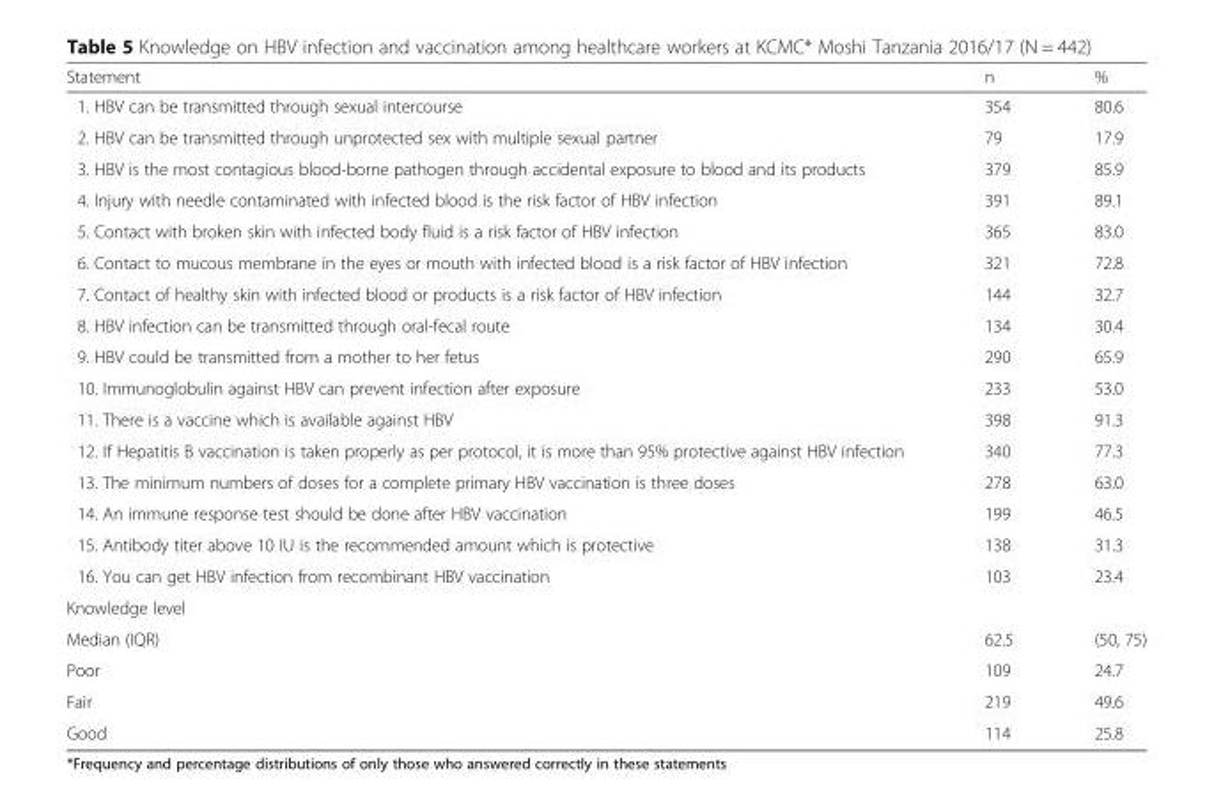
<table><thead><tr><td>Statement</td><td>n</td><td>%</td></tr></thead><tbody><tr><td>1. HBV can be transmitted through sexual intercourse</td><td>354</td><td>80.6</td></tr><tr><td>2. HBV can be transmitted through unprotected sex with multiple sexual partner</td><td>79</td><td>17.9</td></tr><tr><td>3. HBV is the most contagious blood-borne pathogen through accidental exposure to blood and its products</td><td>379</td><td>85.9</td></tr><tr><td>4. Injury with needle contaminated with infected blood is the risk factor of HBV infection</td><td>391</td><td>89.1</td></tr><tr><td>5. Contact with broken skin with infected body fluid is a risk factor of HBV infection</td><td>365</td><td>83.0</td></tr><tr><td>6. Contact to mucous membrane in the eyes or mouth with infected blood is a risk factor of HBV infection</td><td>321</td><td>72.8</td></tr><tr><td>7. Contact of healthy skin with infected blood or products is a risk factor of HBV infection</td><td>144</td><td>32.7</td></tr><tr><td>8. HBV infection can be transmitted through oral-fecal route</td><td>134</td><td>30.4</td></tr><tr><td>9. HBV could be transmitted from a mother to her fetus</td><td>290</td><td>65.9</td></tr><tr><td>10. Immunoglobulin against HBV can prevent infection after exposure</td><td>233</td><td>53.0</td></tr><tr><td>11. There is a vaccine which is available against HBV</td><td>398</td><td>91.3</td></tr><tr><td>12. If Hepatitis B vaccination is taken properly as per protocol, it is more than 95% protective against HBV infection</td><td>340</td><td>77.3</td></tr><tr><td>13. The minimum numbers of doses for a complete primary HBV vaccination is three doses</td><td>278</td><td>63.0</td></tr><tr><td>14. An immune response test should be done after HBV vaccination</td><td>199</td><td>46.5</td></tr><tr><td>15. Antibody titer above 10 IU is the recommended amount which is protective</td><td>138</td><td>31.3</td></tr><tr><td>16. You can get HBV infection from recombinant HBV vaccination</td><td>103</td><td>23.4</td></tr><tr><td colspan="3">Knowledge level</td></tr><tr><td>Median (IQR)</td><td>62.5</td><td>(50, 75)</td></tr><tr><td>Poor</td><td>109</td><td>24.7</td></tr><tr><td>Fair</td><td>219</td><td>49.6</td></tr><tr><td>Good</td><td>114</td><td>25.8</td></tr></tbody></table>